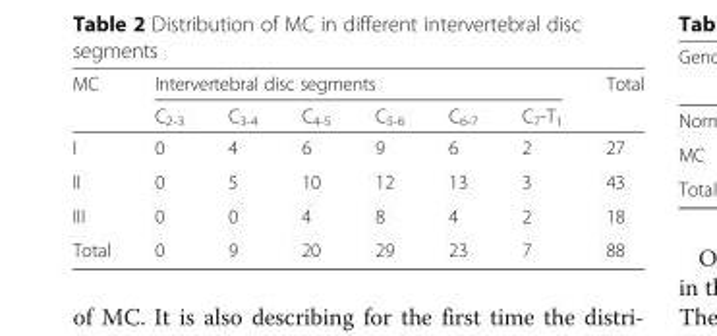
<table><thead><tr><td rowspan="2">MC</td><td colspan="6">Intervertebral disc segments</td><td rowspan="2">Total</td></tr><tr><td>C<sub>2-3</sub></td><td>C<sub>3-4</sub></td><td>C<sub>4-5</sub></td><td>C<sub>5-6</sub></td><td>C<sub>6-7</sub></td><td>C<sub>7</sub>-T<sub>1</sub></td></tr></thead><tbody><tr><td>I</td><td>0</td><td>4</td><td>6</td><td>9</td><td>6</td><td>2</td><td>27</td></tr><tr><td>II</td><td>0</td><td>5</td><td>10</td><td>12</td><td>13</td><td>3</td><td>43</td></tr><tr><td>III</td><td>0</td><td>0</td><td>4</td><td>8</td><td>4</td><td>2</td><td>18</td></tr><tr><td>Total</td><td>0</td><td>9</td><td>20</td><td>29</td><td>23</td><td>7</td><td>88</td></tr></tbody></table>